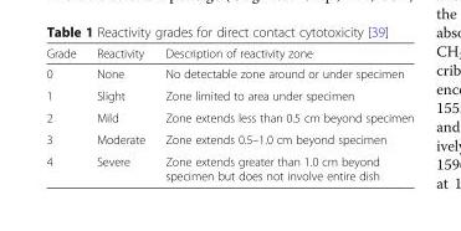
<table><thead><tr><td>Grade</td><td>Reactivity</td><td>Description of reactivity zone</td></tr></thead><tbody><tr><td>0</td><td>None</td><td>No detectable zone around or under specimen</td></tr><tr><td>1</td><td>Slight</td><td>Zone limited to area under specimen</td></tr><tr><td>2</td><td>Mild</td><td>Zone extends less than 0.5 cm beyond specimen</td></tr><tr><td>3</td><td>Moderate</td><td>Zone extends 0.5–1.0 cm beyond specimen</td></tr><tr><td>4</td><td>Severe</td><td>Zone extends greater than 1.0 cm beyond specimen but does not involve entire dish</td></tr></tbody></table>